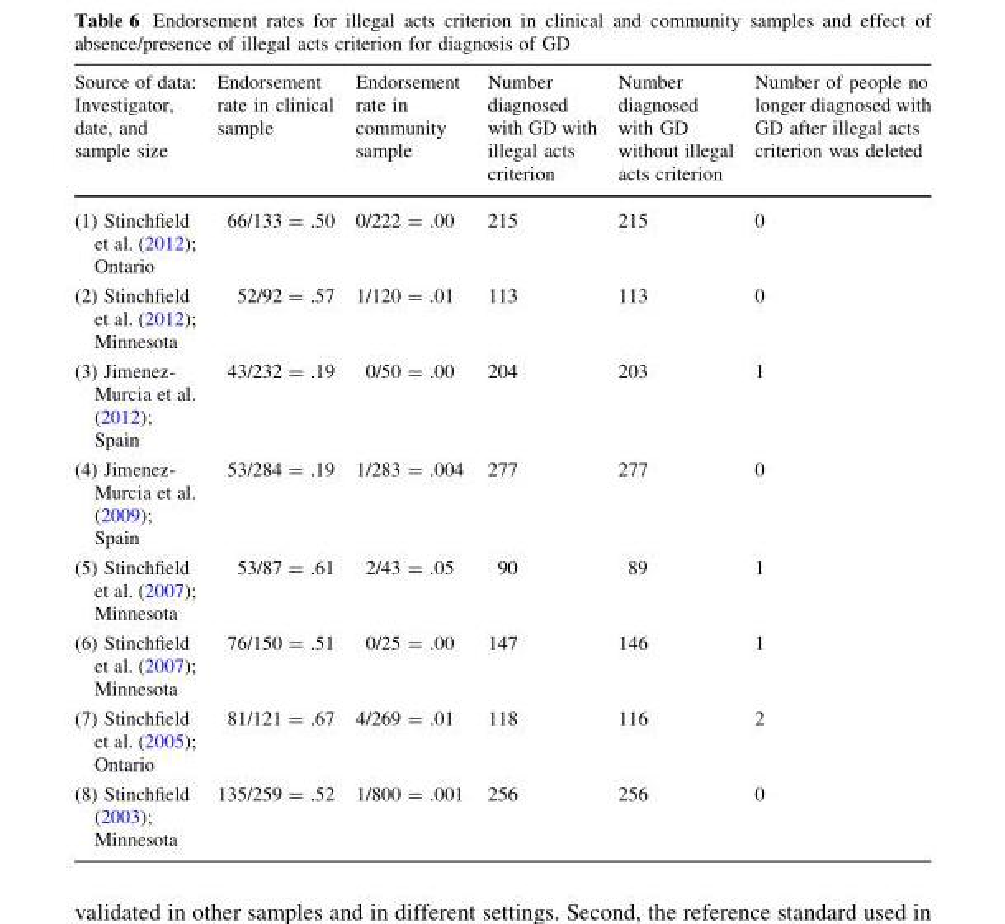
<table><thead><tr><td>Source of data: Investigator, date, and sample size</td><td>Endorsement rate in clinical sample</td><td>Endorsement rate in community sample</td><td>Number diagnosed with GD with illegal acts criterion</td><td>Number diagnosed with GD without illegal acts criterion</td><td>Number of people no longer diagnosed with GD after illegal acts criterion was deleted</td></tr></thead><tbody><tr><td>(1) Stinchfield et al. (2012); Ontario</td><td>66/133 = .50</td><td>0/222 = .00</td><td>215</td><td>215</td><td>0</td></tr><tr><td>(2) Stinchfield et al. (2012); Minnesota</td><td>52/92 = .57</td><td>1/120 = .01</td><td>113</td><td>113</td><td>0</td></tr><tr><td>(3) Jimenez- Murcia et al. (2012); Spain</td><td>43/232 = .19</td><td>0/50 = .00</td><td>204</td><td>203</td><td>1</td></tr><tr><td>(4) Jimenez- Murcia et al. (2009); Spain</td><td>53/284 = .19</td><td>1/283 = .004</td><td>277</td><td>277</td><td>0</td></tr><tr><td>(5) Stinchfield et al. (2007); Minnesota</td><td>53/87 = .61</td><td>2/43 = .05</td><td>90</td><td>89</td><td>1</td></tr><tr><td>(6) Stinchfield et al. (2007); Minnesota</td><td>76/150 = .51</td><td>0/25 = .00</td><td>147</td><td>146</td><td>1</td></tr><tr><td>(7) Stinchfield et al. (2005); Ontario</td><td>81/121 = .67</td><td>4/269 = .01</td><td>118</td><td>116</td><td>2</td></tr><tr><td>(8) Stinchfield (2003); Minnesota</td><td>135/259 = .52</td><td>1/800 = .001</td><td>256</td><td>256</td><td>0</td></tr></tbody></table>